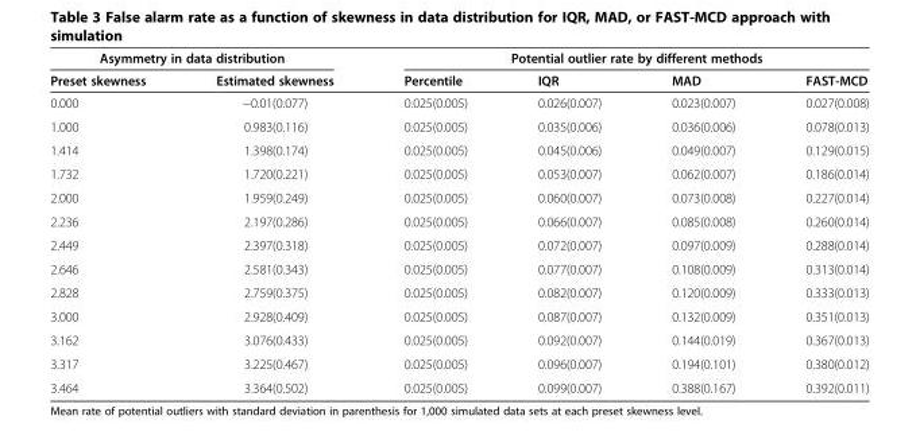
<table><thead><tr><td colspan="2">Asymmetry in data distribution</td><td colspan="4">Potential outlier rate by different methods</td></tr><tr><td>Preset skewness</td><td>Estimated skewness</td><td>Percentile</td><td>IQR</td><td>MAD</td><td>FAST-MCD</td></tr></thead><tbody><tr><td>0.000</td><td>−0.01(0.077)</td><td>0.025(0.005)</td><td>0.026(0.007)</td><td>0.023(0.007)</td><td>0.027(0.008)</td></tr><tr><td>1.000</td><td>0.983(0.116)</td><td>0.025(0.005)</td><td>0.035(0.006)</td><td>0.036(0.006)</td><td>0.078(0.013)</td></tr><tr><td>1.414</td><td>1.398(0.174)</td><td>0.025(0.005)</td><td>0.045(0.006)</td><td>0.049(0.007)</td><td>0.129(0.015)</td></tr><tr><td>1.732</td><td>1.720(0.221)</td><td>0.025(0.005)</td><td>0.053(0.007)</td><td>0.062(0.007)</td><td>0.186(0.014)</td></tr><tr><td>2.000</td><td>1.959(0.249)</td><td>0.025(0.005)</td><td>0.060(0.007)</td><td>0.073(0.008)</td><td>0.227(0.014)</td></tr><tr><td>2.236</td><td>2.197(0.286)</td><td>0.025(0.005)</td><td>0.066(0.007)</td><td>0.085(0.008)</td><td>0.260(0.014)</td></tr><tr><td>2.449</td><td>2.397(0.318)</td><td>0.025(0.005)</td><td>0.072(0.007)</td><td>0.097(0.009)</td><td>0.288(0.014)</td></tr><tr><td>2.646</td><td>2.581(0.343)</td><td>0.025(0.005)</td><td>0.077(0.007)</td><td>0.108(0.009)</td><td>0.313(0.014)</td></tr><tr><td>2.828</td><td>2.759(0.375)</td><td>0.025(0.005)</td><td>0.082(0.007)</td><td>0.120(0.009)</td><td>0.333(0.013)</td></tr><tr><td>3.000</td><td>2.928(0.409)</td><td>0.025(0.005)</td><td>0.087(0.007)</td><td>0.132(0.009)</td><td>0.351(0.013)</td></tr><tr><td>3.162</td><td>3.076(0.433)</td><td>0.025(0.005)</td><td>0.092(0.007)</td><td>0.144(0.019)</td><td>0.367(0.013)</td></tr><tr><td>3.317</td><td>3.225(0.467)</td><td>0.025(0.005)</td><td>0.096(0.007)</td><td>0.194(0.101)</td><td>0.380(0.012)</td></tr><tr><td>3.464</td><td>3.364(0.502)</td><td>0.025(0.005)</td><td>0.099(0.007)</td><td>0.388(0.167)</td><td>0.392(0.011)</td></tr></tbody></table>